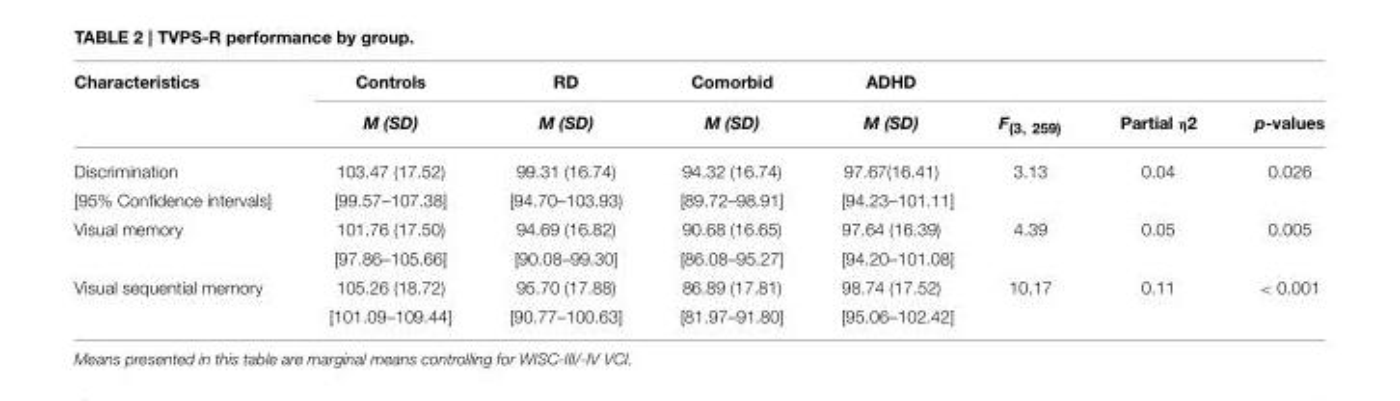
<table><thead><tr><td rowspan="2">Characteristics</td><td rowspan="2">Controls M (SD)</td><td rowspan="2">RD M (SD)</td><td rowspan="2">Comorbid M (SD)</td><td rowspan="2">ADHD M (SD)</td><td rowspan="2">F<sub>(3, 259)</sub></td><td rowspan="2">Partial η2</td><td rowspan="2">p-values</td></tr><tr></tr></thead><tbody><tr><td>Discrimination</td><td>103.47 (17.52)</td><td>99.31 (16.74)</td><td>94.32 (16.74)</td><td>97.67(16.41)</td><td>3.13</td><td>0.04</td><td>0.026</td></tr><tr><td>[95% Confidence intervals]</td><td>[99.57–107.38]</td><td>[94.70–103.93)</td><td>[89.72–98.91]</td><td>[94.23–101.11]</td><td></td><td></td><td></td></tr><tr><td rowspan="2">Visual memory</td><td>101.76 (17.50)</td><td>94.69 (16.82)</td><td>90.68 (16.65)</td><td>97.64 (16.39)</td><td>4.39</td><td>0.05</td><td>0.005</td></tr><tr><td>[97.86–105.66]</td><td>[90.08–99.30]</td><td>[86.08–95.27]</td><td>[94.20–101.08]</td><td></td><td></td><td></td></tr><tr><td rowspan="2">Visual sequential memory</td><td>105.26 (18.72)</td><td>95.70 (17.88)</td><td>86.89 (17.81)</td><td>98.74 (17.52)</td><td>10.17</td><td>0.11</td><td>&lt; 0.001</td></tr><tr><td>[101.09–109.44]</td><td>[90.77–100.63]</td><td>[81.97–91.80]</td><td>[95.06–102.42]</td><td></td><td></td><td></td></tr></tbody></table>